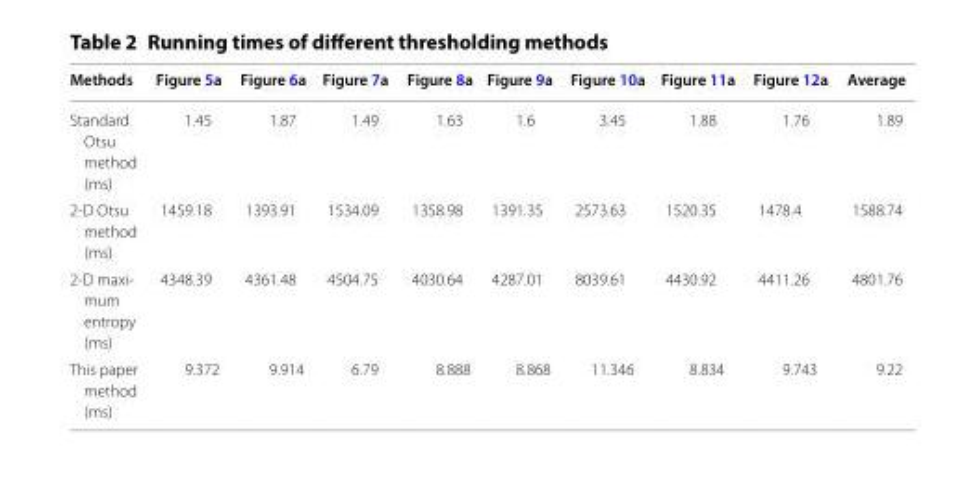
<table><thead><tr><td>Methods</td><td>Figure 5a</td><td>Figure 6a</td><td>Figure 7a</td><td>Figure 8a</td><td>Figure 9a</td><td>Figure 10a</td><td>Figure 11a</td><td>Figure 12a</td><td>Average</td></tr></thead><tbody><tr><td>Standard Otsu method (ms)</td><td>1.45</td><td>1.87</td><td>1.49</td><td>1.63</td><td>1.6</td><td>3.45</td><td>1.88</td><td>1.76</td><td>1.89</td></tr><tr><td>2-D Otsu method (ms)</td><td>1459.18</td><td>1393.91</td><td>1534.09</td><td>1358.98</td><td>1391.35</td><td>2573.63</td><td>1520.35</td><td>1478.4</td><td>1588.74</td></tr><tr><td>2-D maxi- mum entropy (ms)</td><td>4348.39</td><td>4361.48</td><td>4504.75</td><td>4030.64</td><td>4287.01</td><td>8039.61</td><td>4430.92</td><td>4411.26</td><td>4801.76</td></tr><tr><td>This paper method (ms)</td><td>9.372</td><td>9.914</td><td>6.79</td><td>8.888</td><td>8.868</td><td>11.346</td><td>8.834</td><td>9.743</td><td>9.22</td></tr></tbody></table>